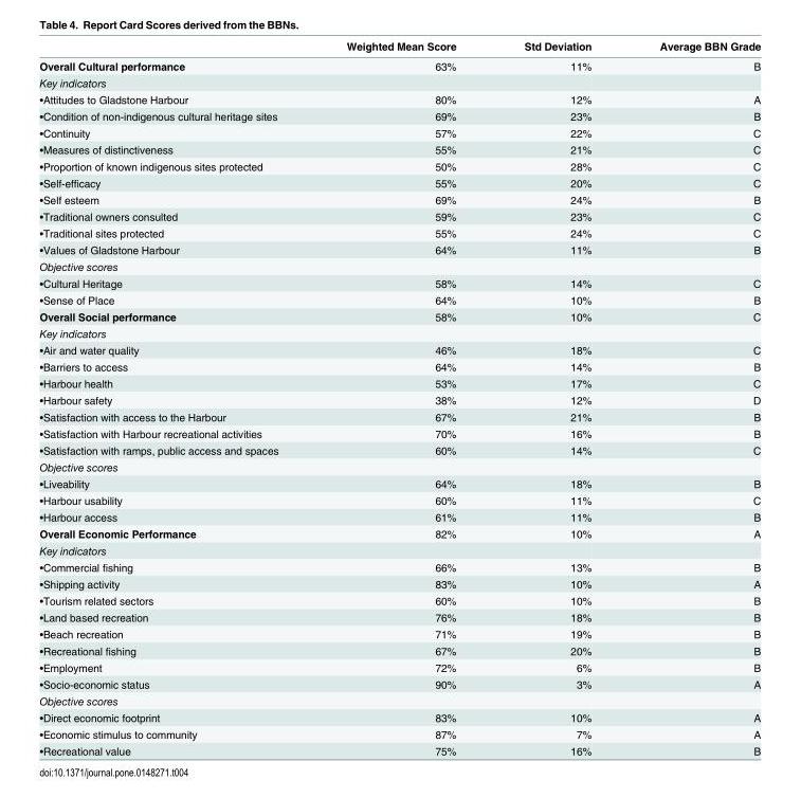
<table><thead><tr><td></td><td>Weighted Mean Score</td><td>Std Deviation</td><td>Average BBN Grade</td></tr></thead><tbody><tr><td>Overall Cultural performance</td><td>63%</td><td>11%</td><td>B</td></tr><tr><td colspan="4">Key indicators</td></tr><tr><td>•Attitudes to Gladstone Harbour</td><td>80%</td><td>12%</td><td>A</td></tr><tr><td>•Condition of non-indigenous cultural heritage sites</td><td>69%</td><td>23%</td><td>B</td></tr><tr><td>•Continuity</td><td>57%</td><td>22%</td><td>C</td></tr><tr><td>•Measures of distinctiveness</td><td>55%</td><td>21%</td><td>C</td></tr><tr><td>•Proportion of known indigenous sites protected</td><td>50%</td><td>28%</td><td>C</td></tr><tr><td>•Self-efficacy</td><td>55%</td><td>20%</td><td>C</td></tr><tr><td>•Self esteem</td><td>69%</td><td>24%</td><td>B</td></tr><tr><td>•Traditional owners consulted</td><td>59%</td><td>23%</td><td>C</td></tr><tr><td>•Traditional sites protected</td><td>55%</td><td>24%</td><td>C</td></tr><tr><td>•Values of Gladstone Harbour</td><td>64%</td><td>11%</td><td>B</td></tr><tr><td colspan="4">Objective scores</td></tr><tr><td>•Cultural Heritage</td><td>58%</td><td>14%</td><td>C</td></tr><tr><td>•Sense of Place</td><td>64%</td><td>10%</td><td>B</td></tr><tr><td>Overall Social performance</td><td>58%</td><td>10%</td><td>C</td></tr><tr><td colspan="4">Key indicators</td></tr><tr><td>•Air and water quality</td><td>46%</td><td>18%</td><td>C</td></tr><tr><td>•Barriers to access</td><td>64%</td><td>14%</td><td>B</td></tr><tr><td>•Harbour health</td><td>53%</td><td>17%</td><td>C</td></tr><tr><td>•Harbour safety</td><td>38%</td><td>12%</td><td>D</td></tr><tr><td>•Satisfaction with access to the Harbour</td><td>67%</td><td>21%</td><td>B</td></tr><tr><td>•Satisfaction with Harbour recreational activities</td><td>70%</td><td>16%</td><td>B</td></tr><tr><td>•Satisfaction with ramps, public access and spaces</td><td>60%</td><td>14%</td><td>C</td></tr><tr><td colspan="4">Objective scores</td></tr><tr><td>•Liveability</td><td>64%</td><td>18%</td><td>B</td></tr><tr><td>•Harbour usability</td><td>60%</td><td>11%</td><td>C</td></tr><tr><td>•Harbour access</td><td>61%</td><td>11%</td><td>B</td></tr><tr><td>Overall Economic Performance</td><td>82%</td><td>10%</td><td>A</td></tr><tr><td colspan="4">Key indicators</td></tr><tr><td>•Commercial fishing</td><td>66%</td><td>13%</td><td>B</td></tr><tr><td>•Shipping activity</td><td>83%</td><td>10%</td><td>A</td></tr><tr><td>•Tourism related sectors</td><td>60%</td><td>10%</td><td>B</td></tr><tr><td>•Land based recreation</td><td>76%</td><td>18%</td><td>B</td></tr><tr><td>•Beach recreation</td><td>71%</td><td>19%</td><td>B</td></tr><tr><td>•Recreational fishing</td><td>67%</td><td>20%</td><td>B</td></tr><tr><td>•Employment</td><td>72%</td><td>6%</td><td>B</td></tr><tr><td>•Socio-economic status</td><td>90%</td><td>3%</td><td>A</td></tr><tr><td colspan="4">Objective scores</td></tr><tr><td>•Direct economic footprint</td><td>83%</td><td>10%</td><td>A</td></tr><tr><td>•Economic stimulus to community</td><td>87%</td><td>7%</td><td>A</td></tr><tr><td>•Recreational value</td><td>75%</td><td>16%</td><td>B</td></tr></tbody></table>